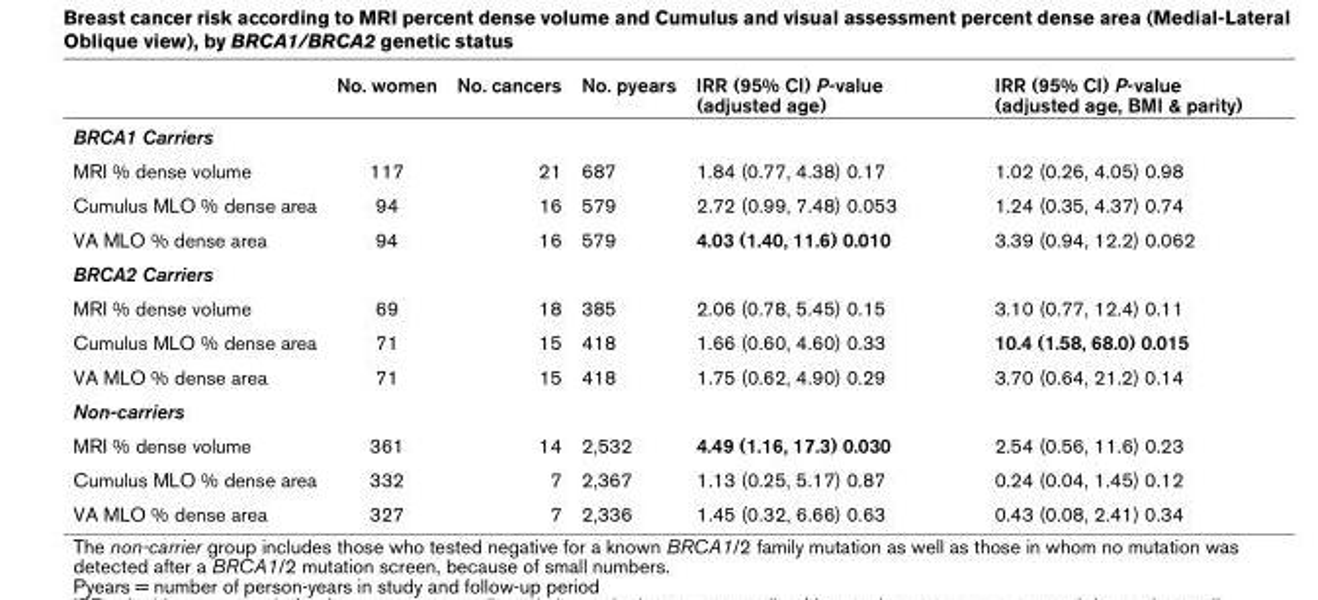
<table><thead><tr><td></td><td>No. women</td><td>No. cancers</td><td>No. pyears</td><td>IRR (95% CI) P-value (adjusted age)</td><td>IRR (95% CI) P-value (adjusted age, BMI &amp; parity)</td></tr></thead><tbody><tr><td colspan="6">BRCA1 Carriers</td></tr><tr><td>MRI % dense volume</td><td>117</td><td>21</td><td>687</td><td>1.84 (0.77, 4.38) 0.17</td><td>1.02 (0.26, 4.05) 0.98</td></tr><tr><td>Cumulus MLO % dense area</td><td>94</td><td>16</td><td>579</td><td>2.72 (0.99, 7.48) 0.053</td><td>1.24 (0.35, 4.37) 0.74</td></tr><tr><td>VA MLO % dense area</td><td>94</td><td>16</td><td>579</td><td>4.03 (1.40, 11.6) 0.010</td><td>3.39 (0.94, 12.2) 0.062</td></tr><tr><td colspan="6">BRCA2 Carriers</td></tr><tr><td>MRI % dense volume</td><td>69</td><td>18</td><td>385</td><td>2.06 (0.78, 5.45) 0.15</td><td>3.10 (0.77, 12.4) 0.11</td></tr><tr><td>Cumulus MLO % dense area</td><td>71</td><td>15</td><td>418</td><td>1.66 (0.60, 4.60) 0.33</td><td>10.4 (1.58, 68.0) 0.015</td></tr><tr><td>VA MLO % dense area</td><td>71</td><td>15</td><td>418</td><td>1.75 (0.62, 4.90) 0.29</td><td>3.70 (0.64, 21.2) 0.14</td></tr><tr><td colspan="6">Non-carriers</td></tr><tr><td>MRI % dense volume</td><td>361</td><td>14</td><td>2,532</td><td>4.49 (1.16, 17.3) 0.030</td><td>2.54 (0.56, 11.6) 0.23</td></tr><tr><td>Cumulus MLO % dense area</td><td>332</td><td>7</td><td>2,367</td><td>1.13 (0.25, 5.17) 0.87</td><td>0.24 (0.04, 1.45) 0.12</td></tr><tr><td>VA MLO % dense area</td><td>327</td><td>7</td><td>2,336</td><td>1.45 (0.32, 6.66) 0.63</td><td>0.43 (0.08, 2.41) 0.34</td></tr></tbody></table>